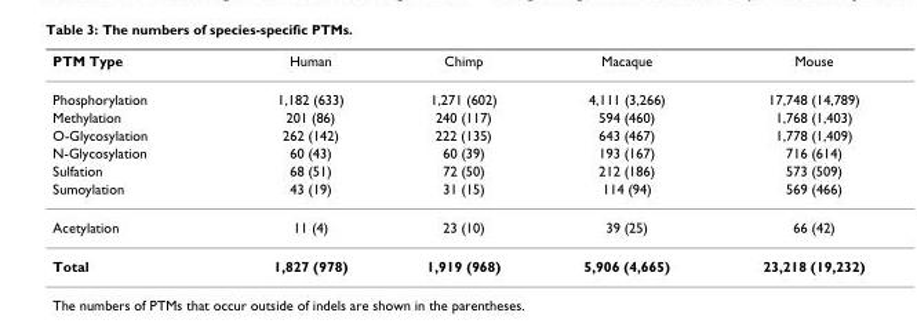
<table><thead><tr><td>PTM Type</td><td>Human</td><td>Chimp</td><td>Macaque</td><td>Mouse</td></tr></thead><tbody><tr><td>Phosphorylation</td><td>1,182 (633)</td><td>1,271 (602)</td><td>4,111 (3,266)</td><td>17,748 (14,789)</td></tr><tr><td>Methylation</td><td>201 (86)</td><td>240 (117)</td><td>594 (460)</td><td>1,768 (1,403)</td></tr><tr><td>O-Glycosylation</td><td>262 (142)</td><td>222 (135)</td><td>643 (467)</td><td>1,778 (1,409)</td></tr><tr><td>N-Glycosylation</td><td>60 (43)</td><td>60 (39)</td><td>193 (167)</td><td>716 (614)</td></tr><tr><td>Sulfation</td><td>68 (51)</td><td>72 (50)</td><td>212 (186)</td><td>573 (509)</td></tr><tr><td>Sumoylation</td><td>43 (19)</td><td>31 (15)</td><td>114 (94)</td><td>569 (466)</td></tr><tr><td>Acetylation</td><td>11 (4)</td><td>23 (10)</td><td>39 (25)</td><td>66 (42)</td></tr><tr><td>Total</td><td>1,827 (978)</td><td>1,919 (968)</td><td>5,906 (4,665)</td><td>23,218 (19,232)</td></tr></tbody></table>